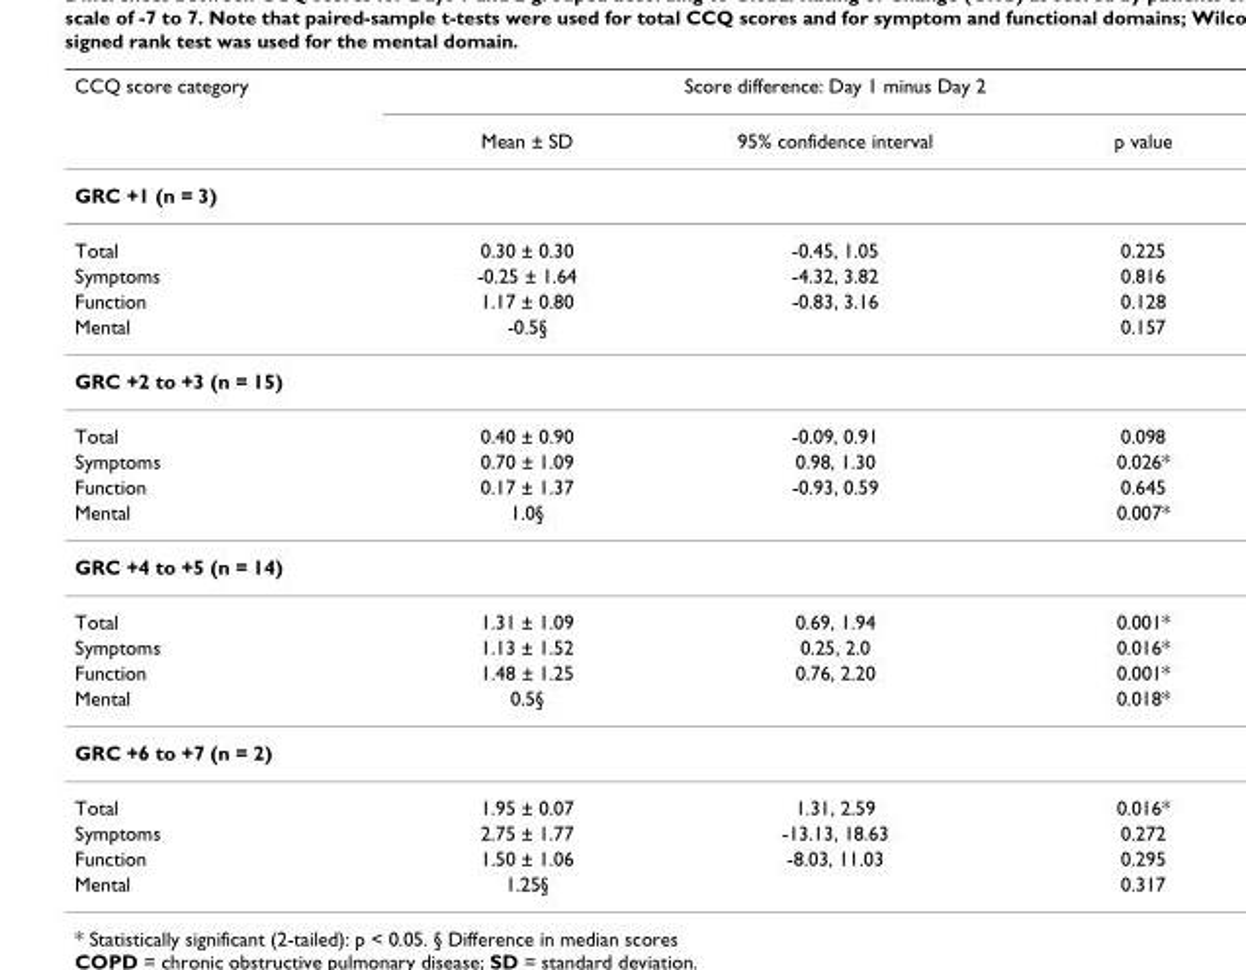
<table><thead><tr><td rowspan="2">CCQ score category</td><td colspan="3">Score difference: Day 1 minus Day 2</td></tr><tr><td>Mean ± SD</td><td>95% confidence interval</td><td>p value</td></tr></thead><tbody><tr><td colspan="4">GRC +1 (n = 3)</td></tr><tr><td>Total</td><td>0.30 ± 0.30</td><td>-0.45, 1.05</td><td>0.225</td></tr><tr><td>Symptoms</td><td>-0.25 ± 1.64</td><td>-4.32, 3.82</td><td>0.816</td></tr><tr><td>Function</td><td>1.17 ± 0.80</td><td>-0.83, 3.16</td><td>0.128</td></tr><tr><td>Mental</td><td>-0.5§</td><td></td><td>0.157</td></tr><tr><td colspan="4">GRC +2 to +3 (n = 15)</td></tr><tr><td>Total</td><td>0.40 ± 0.90</td><td>-0.09, 0.91</td><td>0.098</td></tr><tr><td>Symptoms</td><td>0.70 ± 1.09</td><td>0.98, 1.30</td><td>0.026*</td></tr><tr><td>Function</td><td>0.17 ± 1.37</td><td>-0.93, 0.59</td><td>0.645</td></tr><tr><td>Mental</td><td>1.0§</td><td></td><td>0.007*</td></tr><tr><td colspan="4">GRC +4 to +5 (n = 14)</td></tr><tr><td>Total</td><td>1.31 ± 1.09</td><td>0.69, 1.94</td><td>0.001*</td></tr><tr><td>Symptoms</td><td>1.13 ± 1.52</td><td>0.25, 2.0</td><td>0.016*</td></tr><tr><td>Function</td><td>1.48 ± 1.25</td><td>0.76, 2.20</td><td>0.001*</td></tr><tr><td>Mental</td><td>0.5§</td><td></td><td>0.018*</td></tr><tr><td colspan="4">GRC +6 to +7 (n = 2)</td></tr><tr><td>Total</td><td>1.95 ± 0.07</td><td>1.31, 2.59</td><td>0.016*</td></tr><tr><td>Symptoms</td><td>2.75 ± 1.77</td><td>-13.13, 18.63</td><td>0.272</td></tr><tr><td>Function</td><td>1.50 ± 1.06</td><td>-8.03, 11.03</td><td>0.295</td></tr><tr><td>Mental</td><td>1.25§</td><td></td><td>0.317</td></tr></tbody></table>